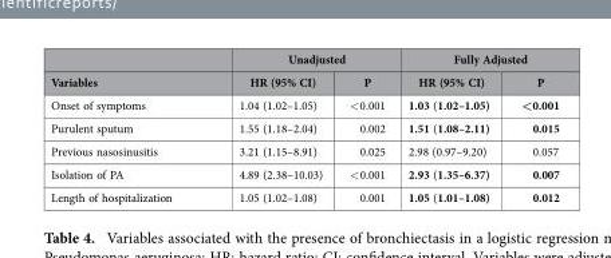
<table><thead><tr><td rowspan="2">Variables</td><td colspan="2">Unadjusted</td><td colspan="2">Fully Adjusted</td></tr><tr><td>HR (95% CI)</td><td>P</td><td>HR (95% CI)</td><td>P</td></tr></thead><tbody><tr><td>Onset of symptoms</td><td>1.04 (1.02–1.05)</td><td>&lt; 0.001</td><td>1.03 (1.02–1.05)</td><td>&lt;0.001</td></tr><tr><td>Purulent sputum</td><td>1.55 (1.18–2.04)</td><td>0.002</td><td>1.51 (1.08–2.11)</td><td>0.015</td></tr><tr><td>Previous nasosinusitis</td><td>3.21 (1.15–8.91)</td><td>0.025</td><td>2.98 (0.97–9.20)</td><td>0.057</td></tr><tr><td>Isolation of PA</td><td>4.89 (2.38–10.03)</td><td>&lt; 0.001</td><td>2.93 (1.35–6.37)</td><td>0.007</td></tr><tr><td>Length of hospitalization</td><td>1.05 (1.02–1.08)</td><td>0.001</td><td>1.05 (1.01–1.08)</td><td>0.012</td></tr></tbody></table>